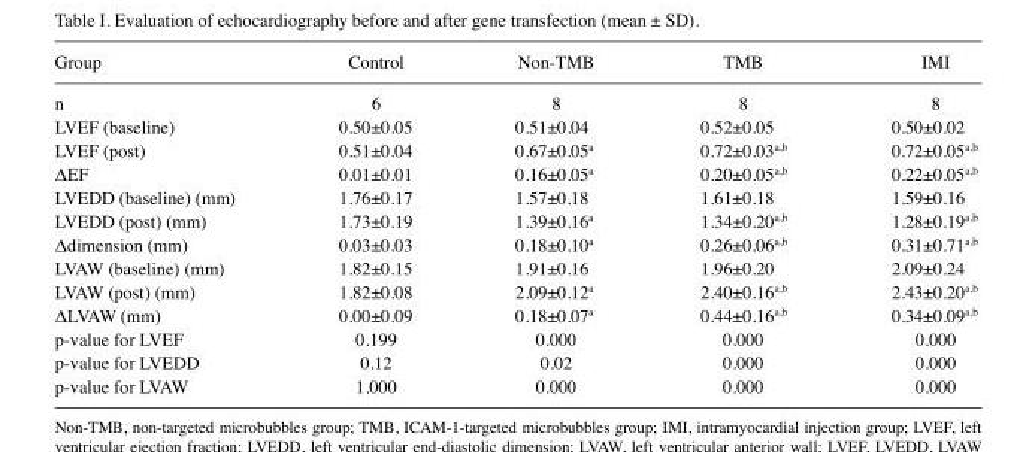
<table><thead><tr><td>Group</td><td>Control</td><td>Non-TMB</td><td>TMB</td><td>IMI</td></tr></thead><tbody><tr><td>n</td><td>6</td><td>8</td><td>8</td><td>8</td></tr><tr><td>LVEF (baseline)</td><td>0.50±0.05</td><td>0.51±0.04</td><td>0.52±0.05</td><td>0.50±0.02</td></tr><tr><td>LVEF (post)</td><td>0.51±0.04</td><td>0.67±0.05<sup>a</sup></td><td>0.72±0.03<sup>a</sup>,<sup>b</sup></td><td>0.72±0.05<sup>a</sup>,<sup>b</sup></td></tr><tr><td>ΔEF</td><td>0.01±0.01</td><td>0.16±0.05<sup>a</sup></td><td>0.20±0.05<sup>a</sup>,<sup>b</sup></td><td>0.22±0.05<sup>a</sup>,<sup>b</sup></td></tr><tr><td>LVEDD (baseline) (mm)</td><td>1.76±0.17</td><td>1.57±0.18</td><td>1.61±0.18</td><td>1.59±0.16</td></tr><tr><td>LVEDD (post) (mm)</td><td>1.73±0.19</td><td>1.39±0.16<sup>a</sup></td><td>1.34±0.20<sup>a</sup>,<sup>b</sup></td><td>1.28±0.19<sup>a</sup>,<sup>b</sup></td></tr><tr><td>Δdimension (mm)</td><td>0.03±0.03</td><td>0.18±0.10<sup>a</sup></td><td>0.26±0.06<sup>a</sup>,<sup>b</sup></td><td>0.31±0.71<sup>a</sup>,<sup>b</sup></td></tr><tr><td>LVAW (baseline) (mm)</td><td>1.82±0.15</td><td>1.91±0.16</td><td>1.96±0.20</td><td>2.09±0.24</td></tr><tr><td>LVAW (post) (mm)</td><td>1.82±0.08</td><td>2.09±0.12<sup>a</sup></td><td>2.40±0.16<sup>a</sup>,<sup>b</sup></td><td>2.43±0.20<sup>a</sup>,<sup>b</sup></td></tr><tr><td>ΔLVAW (mm)</td><td>0.00±0.09</td><td>0.18±0.07<sup>a</sup></td><td>0.44±0.16<sup>a</sup>,<sup>b</sup></td><td>0.34±0.09<sup>a</sup>,<sup>b</sup></td></tr><tr><td>p-value for LVEF</td><td>0.199</td><td>0.000</td><td>0.000</td><td>0.000</td></tr><tr><td>p-value for LVEDD</td><td>0.12</td><td>0.02</td><td>0.000</td><td>0.000</td></tr><tr><td>p-value for LVAW</td><td>1.000</td><td>0.000</td><td>0.000</td><td>0.000</td></tr></tbody></table>